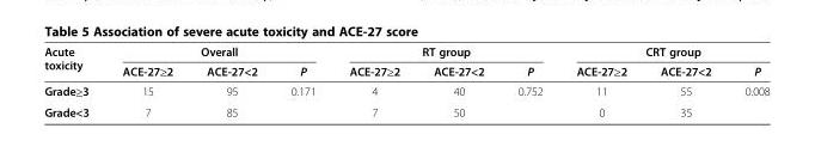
<table><thead><tr><td rowspan="2">Acute toxicity</td><td colspan="3">Overall</td><td colspan="3">RT group</td><td colspan="3">CRT group</td></tr><tr><td>ACE-27≥2</td><td>ACE-27&lt;2</td><td>P</td><td>ACE-27≥2</td><td>ACE-27&lt;2</td><td>P</td><td>ACE-27≥2</td><td>ACE-27&lt;2</td><td>P</td></tr></thead><tbody><tr><td>Grade≥3</td><td>15</td><td>95</td><td rowspan="2">0.171</td><td>4</td><td>40</td><td rowspan="2">0.752</td><td>11</td><td>55</td><td rowspan="2">0.008</td></tr><tr><td>Grade&lt;3</td><td>7</td><td>85</td><td>7</td><td>50</td><td>0</td><td>35</td></tr></tbody></table>